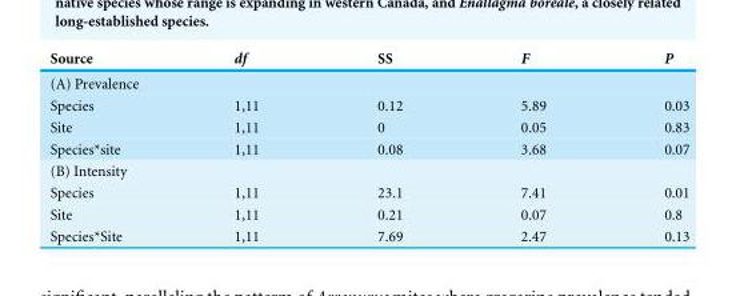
<table><thead><tr><td>Source</td><td>df</td><td>SS</td><td>F</td><td>P</td></tr></thead><tbody><tr><td colspan="5">(A) Prevalence</td></tr><tr><td>Species</td><td>1,11</td><td>0.12</td><td>5.89</td><td>0.03</td></tr><tr><td>Site</td><td>1,11</td><td>0</td><td>0.05</td><td>0.83</td></tr><tr><td>Species*site</td><td>1,11</td><td>0.08</td><td>3.68</td><td>0.07</td></tr><tr><td colspan="5">(B) Intensity</td></tr><tr><td>Species</td><td>1,11</td><td>23.1</td><td>7.41</td><td>0.01</td></tr><tr><td>Site</td><td>1,11</td><td>0.21</td><td>0.07</td><td>0.8</td></tr><tr><td>Species*Site</td><td>1,11</td><td>7.69</td><td>2.47</td><td>0.13</td></tr></tbody></table>